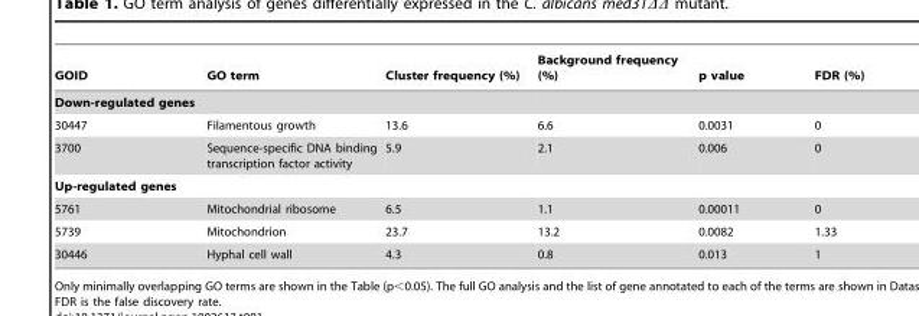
<table><thead><tr><td>GOID</td><td>GO term</td><td>Cluster frequency (%)</td><td>Background frequency (%)</td><td>p value</td><td>FDR (%)</td></tr></thead><tbody><tr><td colspan="6">Down-regulated genes</td></tr><tr><td>30447</td><td>Filamentous growth</td><td>13.6</td><td>6.6</td><td>0.0031</td><td>0</td></tr><tr><td>3700</td><td>Sequence-specific DNA binding transcription factor activity</td><td>5.9</td><td>2.1</td><td>0.006</td><td>0</td></tr><tr><td colspan="6">Up-regulated genes</td></tr><tr><td>5761</td><td>Mitochondrial ribosome</td><td>6.5</td><td>1.1</td><td>0.00011</td><td>0</td></tr><tr><td>5739</td><td>Mitochondrion</td><td>23.7</td><td>13.2</td><td>0.0082</td><td>1.33</td></tr><tr><td>30446</td><td>Hyphal cell wall</td><td>4.3</td><td>0.8</td><td>0.013</td><td>1</td></tr></tbody></table>